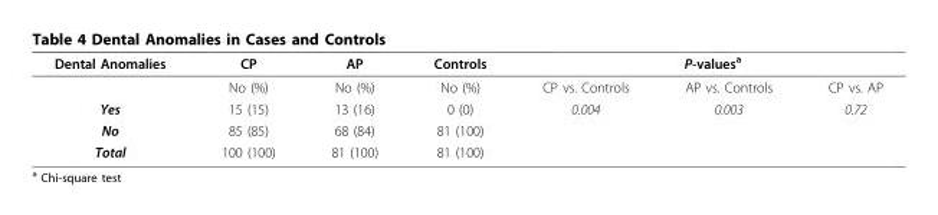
<table><thead><tr><td rowspan="2">Dental Anomalies</td><td rowspan="2">CP No (%)</td><td rowspan="2">AP No (%)</td><td rowspan="2">Controls No (%)</td><td colspan="3">P-values<sup>a</sup></td></tr><tr><td>CP vs. Controls</td><td>AP vs. Controls</td><td>CP vs. AP</td></tr></thead><tbody><tr><td>Yes</td><td>15 (15)</td><td>13 (16)</td><td>0 (0)</td><td>0.004</td><td>0.003</td><td>0.72</td></tr><tr><td>No</td><td>85 (85)</td><td>68 (84)</td><td>81 (100)</td><td></td><td></td><td></td></tr><tr><td>Total</td><td>100 (100)</td><td>81 (100)</td><td>81 (100)</td><td></td><td></td><td></td></tr></tbody></table>